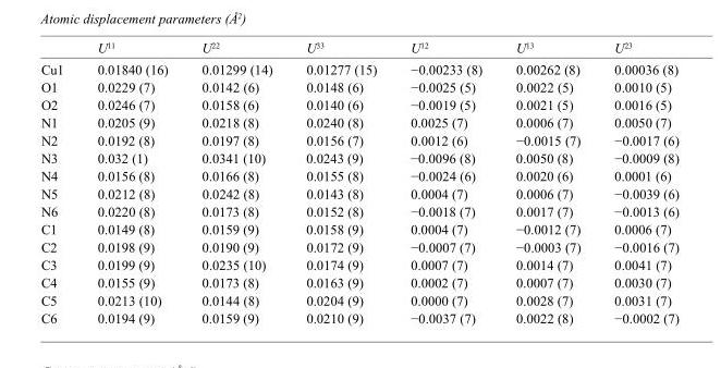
<table><thead><tr><td></td><td>U<sup>11</sup></td><td>U<sup>22</sup></td><td>U<sup>33</sup></td><td>U<sup>12</sup></td><td>U<sup>13</sup></td><td>U<sup>23</sup></td></tr></thead><tbody><tr><td>Cu1</td><td>0.01840 (16)</td><td>0.01299 (14)</td><td>0.01277 (15)</td><td>−0.00233 (8)</td><td>0.00262 (8)</td><td>0.00036 (8)</td></tr><tr><td>O1</td><td>0.0229 (7)</td><td>0.0142 (6)</td><td>0.0148 (6)</td><td>−0.0025 (5)</td><td>0.0022 (5)</td><td>0.0010 (5)</td></tr><tr><td>O2</td><td>0.0246 (7)</td><td>0.0158 (6)</td><td>0.0140 (6)</td><td>−0.0019 (5)</td><td>0.0021 (5)</td><td>0.0016 (5)</td></tr><tr><td>N1</td><td>0.0205 (9)</td><td>0.0218 (8)</td><td>0.0240 (8)</td><td>0.0025 (7)</td><td>0.0006 (7)</td><td>0.0050 (7)</td></tr><tr><td>N2</td><td>0.0192 (8)</td><td>0.0197 (8)</td><td>0.0156 (7)</td><td>0.0012 (6)</td><td>−0.0015 (7)</td><td>−0.0017 (6)</td></tr><tr><td>N3</td><td>0.032 (1)</td><td>0.0341 (10)</td><td>0.0243 (9)</td><td>−0.0096 (8)</td><td>0.0050 (8)</td><td>−0.0009 (8)</td></tr><tr><td>N4</td><td>0.0156 (8)</td><td>0.0166 (8)</td><td>0.0155 (8)</td><td>−0.0024 (6)</td><td>0.0020 (6)</td><td>0.0001 (6)</td></tr><tr><td>N5</td><td>0.0212 (8)</td><td>0.0242 (8)</td><td>0.0143 (8)</td><td>0.0004 (7)</td><td>0.0006 (7)</td><td>−0.0039 (6)</td></tr><tr><td>N6</td><td>0.0220 (8)</td><td>0.0173 (8)</td><td>0.0152 (8)</td><td>−0.0018 (7)</td><td>0.0017 (7)</td><td>−0.0013 (6)</td></tr><tr><td>C1</td><td>0.0149 (8)</td><td>0.0159 (9)</td><td>0.0158 (9)</td><td>0.0004 (7)</td><td>−0.0012 (7)</td><td>0.0006 (7)</td></tr><tr><td>C2</td><td>0.0198 (9)</td><td>0.0190 (9)</td><td>0.0172 (9)</td><td>−0.0007 (7)</td><td>−0.0003 (7)</td><td>−0.0016 (7)</td></tr><tr><td>C3</td><td>0.0199 (9)</td><td>0.0235 (10)</td><td>0.0174 (9)</td><td>0.0007 (7)</td><td>0.0014 (7)</td><td>0.0041 (7)</td></tr><tr><td>C4</td><td>0.0155 (9)</td><td>0.0173 (8)</td><td>0.0163 (9)</td><td>0.0002 (7)</td><td>0.0007 (7)</td><td>0.0030 (7)</td></tr><tr><td>C5</td><td>0.0213 (10)</td><td>0.0144 (8)</td><td>0.0204 (9)</td><td>0.0000 (7)</td><td>0.0028 (7)</td><td>0.0031 (7)</td></tr><tr><td>C6</td><td>0.0194 (9)</td><td>0.0159 (9)</td><td>0.0210 (9)</td><td>−0.0037 (7)</td><td>0.0022 (8)</td><td>−0.0002 (7)</td></tr></tbody></table>